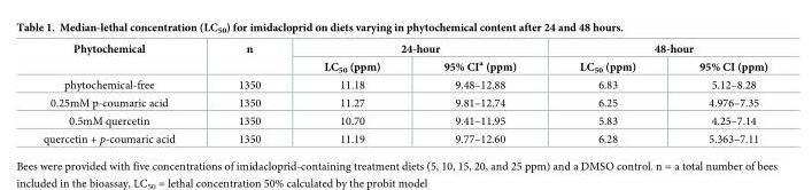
<table><thead><tr><td rowspan="2">Phytochemical</td><td rowspan="2">n</td><td colspan="2">24-hour</td><td colspan="2">48-hour</td></tr><tr><td>LC<sub>50</sub> (ppm)</td><td>95% CI<sup>a</sup> (ppm)</td><td>LC<sub>50</sub> (ppm)</td><td>95% CI (ppm)</td></tr></thead><tbody><tr><td>phytochemical-free</td><td>1350</td><td>11.18</td><td>9.48–12.88</td><td>6.83</td><td>5.12–8.28</td></tr><tr><td>0.25mM p-coumaric acid</td><td>1350</td><td>11.27</td><td>9.81–12.74</td><td>6.25</td><td>4.976–7.35</td></tr><tr><td>0.5mM quercetin</td><td>1350</td><td>10.70</td><td>9.41–11.95</td><td>5.83</td><td>4.25–7.14</td></tr><tr><td>quercetin + p-coumaric acid</td><td>1350</td><td>11.19</td><td>9.77–12.60</td><td>6.28</td><td>5.363–7.11</td></tr></tbody></table>